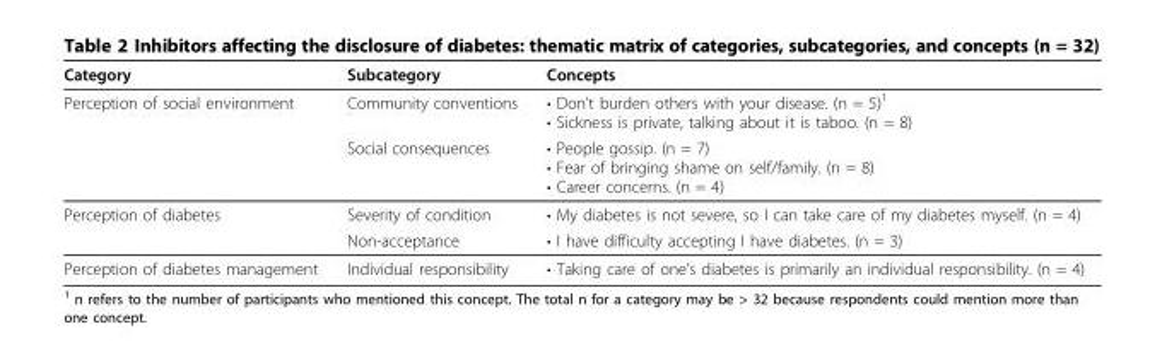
<table><thead><tr><td>Category</td><td>Subcategory</td><td>Concepts</td></tr></thead><tbody><tr><td rowspan="2">Perception of social environment</td><td>Community conventions</td><td>• Don’t burden others with your disease. (n = 5)<sup>1</sup> • Sickness is private, talking about it is taboo. (n = 8)</td></tr><tr><td>Social consequences</td><td>• People gossip. (n = 7) • Fear of bringing shame on self/family. (n = 8) • Career concerns. (n = 4)</td></tr><tr><td rowspan="2">Perception of diabetes</td><td>Severity of condition</td><td>• My diabetes is not severe, so I can take care of my diabetes myself. (n = 4)</td></tr><tr><td>Non-acceptance</td><td>• I have difficulty accepting I have diabetes. (n = 3)</td></tr><tr><td>Perception of diabetes management</td><td>Individual responsibility</td><td>• Taking care of one’s diabetes is primarily an individual responsibility. (n = 4)</td></tr></tbody></table>